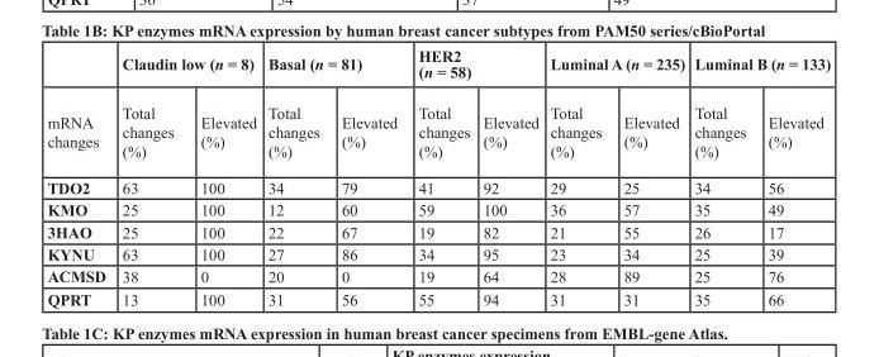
<table><thead><tr><td rowspan="2">mRNA changes</td><td colspan="2">Claudin low (n = 8)</td><td colspan="2">Basal (n = 81)</td><td colspan="2">HER2 (n = 58)</td><td colspan="2">Luminal A (n = 235)</td><td colspan="2">Luminal B (n = 133)</td></tr><tr><td>Total changes (%)</td><td>Elevated (%)</td><td>Total changes (%)</td><td>Elevated (%)</td><td>Total changes (%)</td><td>Elevated (%)</td><td>Total changes (%)</td><td>Elevated (%)</td><td>Total changes (%)</td><td>Elevated (%)</td></tr></thead><tbody><tr><td>TDO2</td><td>63</td><td>100</td><td>34</td><td>79</td><td>41</td><td>92</td><td>29</td><td>25</td><td>34</td><td>56</td></tr><tr><td>KMO</td><td>25</td><td>100</td><td>12</td><td>60</td><td>59</td><td>100</td><td>36</td><td>57</td><td>35</td><td>49</td></tr><tr><td>3HAO</td><td>25</td><td>100</td><td>22</td><td>67</td><td>19</td><td>82</td><td>21</td><td>55</td><td>26</td><td>17</td></tr><tr><td>KYNU</td><td>63</td><td>100</td><td>27</td><td>86</td><td>34</td><td>95</td><td>23</td><td>34</td><td>25</td><td>39</td></tr><tr><td>ACMSD</td><td>38</td><td>0</td><td>20</td><td>0</td><td>19</td><td>64</td><td>28</td><td>89</td><td>25</td><td>76</td></tr><tr><td>QPRT</td><td>13</td><td>100</td><td>31</td><td>56</td><td>55</td><td>94</td><td>31</td><td>31</td><td>35</td><td>66</td></tr></tbody></table>